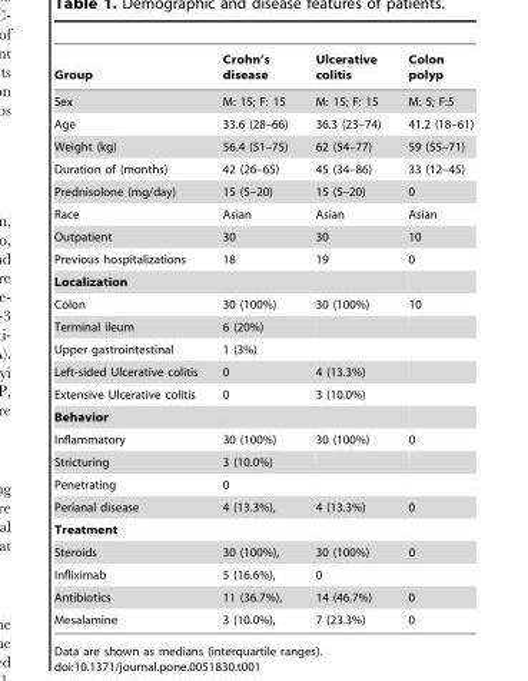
<table><thead><tr><td>Group</td><td>Crohn’s disease</td><td>Ulcerative colitis</td><td>Colon polyp</td></tr></thead><tbody><tr><td>Sex</td><td>M: 15; F: 15</td><td>M: 15; F: 15</td><td>M: 5; F:5</td></tr><tr><td>Age</td><td>33.6 (28–66)</td><td>36.3 (23–74)</td><td>41.2 (18–61)</td></tr><tr><td>Weight (kg)</td><td>56.4 (51–75)</td><td>62 (54–77)</td><td>59 (55–71)</td></tr><tr><td>Duration of (months)</td><td>42 (26–65)</td><td>45 (34–86)</td><td>33 (12–45)</td></tr><tr><td>Prednisolone (mg/day)</td><td>15 (5–20)</td><td>15 (5–20)</td><td>0</td></tr><tr><td>Race</td><td>Asian</td><td>Asian</td><td>Asian</td></tr><tr><td>Outpatient</td><td>30</td><td>30</td><td>10</td></tr><tr><td>Previous hospitalizations</td><td>18</td><td>19</td><td>0</td></tr><tr><td colspan="4">Localization</td></tr><tr><td>Colon</td><td>30 (100%)</td><td>30 (100%)</td><td>10</td></tr><tr><td>Terminal ileum</td><td>6 (20%)</td><td></td><td></td></tr><tr><td>Upper gastrointestinal</td><td>1 (3%)</td><td></td><td></td></tr><tr><td>Left-sided Ulcerative colitis</td><td>0</td><td>4 (13.3%)</td><td></td></tr><tr><td>Extensive Ulcerative colitis</td><td>0</td><td>3 (10.0%)</td><td></td></tr><tr><td colspan="4">Behavior</td></tr><tr><td>Inflammatory</td><td>30 (100%)</td><td>30 (100%)</td><td>0</td></tr><tr><td>Stricturing</td><td>3 (10.0%)</td><td></td><td></td></tr><tr><td>Penetrating</td><td>0</td><td></td><td></td></tr><tr><td>Perianal disease</td><td>4 (13.3%),</td><td>4 (13.3%)</td><td>0</td></tr><tr><td colspan="4">Treatment</td></tr><tr><td>Steroids</td><td>30 (100%),</td><td>30 (100%)</td><td>0</td></tr><tr><td>Infliximab</td><td>5 (16.6%),</td><td>0</td><td></td></tr><tr><td>Antibiotics</td><td>11 (36.7%),</td><td>14 (46.7%)</td><td>0</td></tr><tr><td>Mesalamine</td><td>3 (10.0%),</td><td>7 (23.3%)</td><td>0</td></tr></tbody></table>